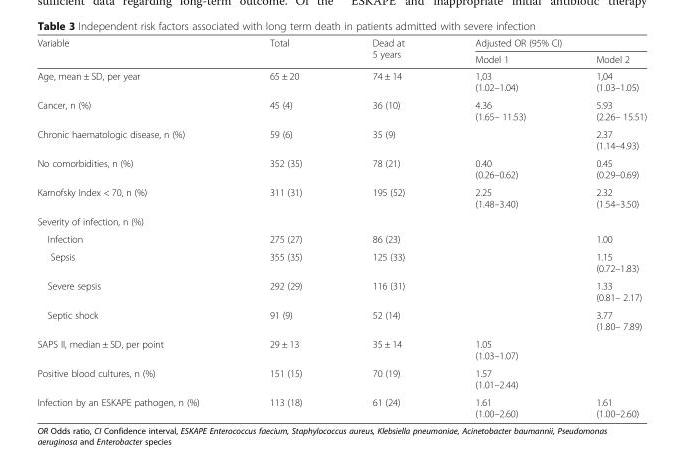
<table><thead><tr><td rowspan="2">Variable</td><td rowspan="2">Total</td><td rowspan="2">Dead at 5 years</td><td colspan="2">Adjusted OR (95% CI)</td></tr><tr><td>Model 1</td><td>Model 2</td></tr></thead><tbody><tr><td>Age, mean ± SD, per year</td><td>65 ± 20</td><td>74 ± 14</td><td>1,03 (1.02–1.04)</td><td>1,04 (1.03–1.05)</td></tr><tr><td>Cancer, n (%)</td><td>45 (4)</td><td>36 (10)</td><td>4.36 (1.65– 11.53)</td><td>5.93 (2.26– 15.51)</td></tr><tr><td>Chronic haematologic disease, n (%)</td><td>59 (6)</td><td>35 (9)</td><td></td><td>2.37 (1.14–4.93)</td></tr><tr><td>No comorbidities, n (%)</td><td>352 (35)</td><td>78 (21)</td><td>0.40 (0.26–0.62)</td><td>0.45 (0.29–0.69)</td></tr><tr><td>Karnofsky Index &lt; 70, n (%)</td><td>311 (31)</td><td>195 (52)</td><td>2.25 (1.48–3.40)</td><td>2.32 (1.54–3.50)</td></tr><tr><td colspan="5">Severity of infection, n (%)</td></tr><tr><td>Infection</td><td>275 (27)</td><td>86 (23)</td><td></td><td>1.00</td></tr><tr><td>Sepsis</td><td>355 (35)</td><td>125 (33)</td><td></td><td>1.15 (0.72–1.83)</td></tr><tr><td>Severe sepsis</td><td>292 (29)</td><td>116 (31)</td><td></td><td>1.33 (0.81– 2.17)</td></tr><tr><td>Septic shock</td><td>91 (9)</td><td>52 (14)</td><td></td><td>3.77 (1.80– 7.89)</td></tr><tr><td>SAPS II, median ± SD, per point</td><td>29 ± 13</td><td>35 ± 14</td><td>1.05 (1.03–1.07)</td><td></td></tr><tr><td>Positive blood cultures, n (%)</td><td>151 (15)</td><td>70 (19)</td><td>1.57 (1.01–2.44)</td><td></td></tr><tr><td>Infection by an ESKAPE pathogen, n (%)</td><td>113 (18)</td><td>61 (24)</td><td>1.61 (1.00–2.60)</td><td>1.61 (1.00–2.60)</td></tr></tbody></table>